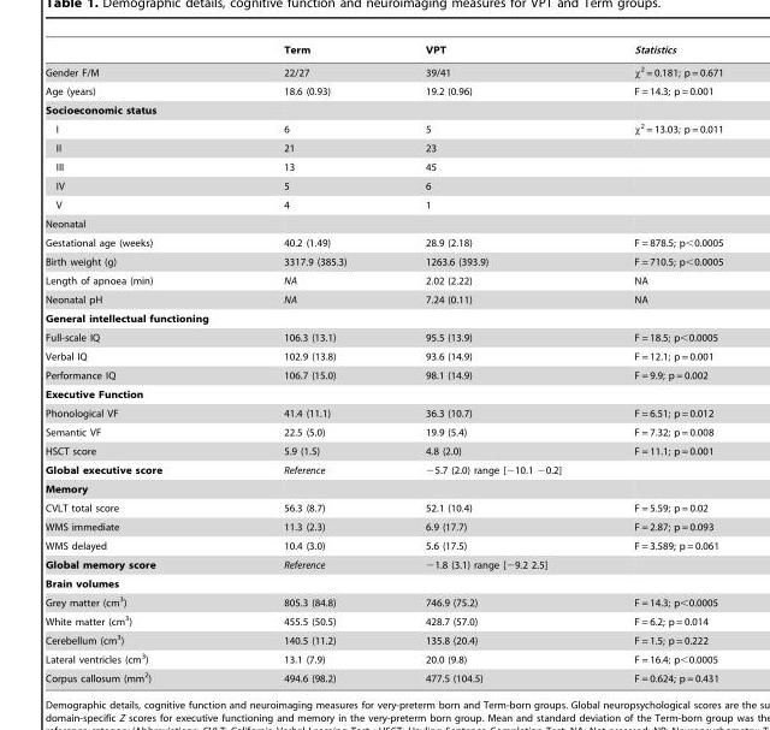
<table><thead><tr><td></td><td>Term</td><td>VPT</td><td>Statistics</td></tr></thead><tbody><tr><td>Gender F/M</td><td>22/27</td><td>39/41</td><td>χ<sup>2</sup> = 0.181; p = 0.671</td></tr><tr><td>Age (years)</td><td>18.6 (0.93)</td><td>19.2 (0.96)</td><td>F = 14.3; p = 0.001</td></tr><tr><td colspan="4">Socioeconomic status</td></tr><tr><td>I</td><td>6</td><td>5</td><td>χ<sup>2</sup> = 13.03; p = 0.011</td></tr><tr><td>II</td><td>21</td><td>23</td><td></td></tr><tr><td>III</td><td>13</td><td>45</td><td></td></tr><tr><td>IV</td><td>5</td><td>6</td><td></td></tr><tr><td>V</td><td>4</td><td>1</td><td></td></tr><tr><td colspan="4">Neonatal</td></tr><tr><td>Gestational age (weeks)</td><td>40.2 (1.49)</td><td>28.9 (2.18)</td><td>F = 878.5; p&lt;0.0005</td></tr><tr><td>Birth weight (g)</td><td>3317.9 (385.3)</td><td>1263.6 (393.9)</td><td>F = 710.5; p&lt;0.0005</td></tr><tr><td>Length of apnoea (min)</td><td>NA</td><td>2.02 (2.22)</td><td>NA</td></tr><tr><td>Neonatal pH</td><td>NA</td><td>7.24 (0.11)</td><td>NA</td></tr><tr><td colspan="4">General intellectual functioning</td></tr><tr><td>Full-scale IQ</td><td>106.3 (13.1)</td><td>95.5 (13.9)</td><td>F = 18.5; p&lt;0.0005</td></tr><tr><td>Verbal IQ</td><td>102.9 (13.8)</td><td>93.6 (14.9)</td><td>F = 12.1; p = 0.001</td></tr><tr><td>Performance IQ</td><td>106.7 (15.0)</td><td>98.1 (14.9)</td><td>F = 9.9; p = 0.002</td></tr><tr><td colspan="4">Executive Function</td></tr><tr><td>Phonological VF</td><td>41.4 (11.1)</td><td>36.3 (10.7)</td><td>F = 6.51; p = 0.012</td></tr><tr><td>Semantic VF</td><td>22.5 (5.0)</td><td>19.9 (5.4)</td><td>F = 7.32; p = 0.008</td></tr><tr><td>HSCT score</td><td>5.9 (1.5)</td><td>4.8 (2.0)</td><td>F = 11.1; p = 0.001</td></tr><tr><td>Global executive score</td><td>Reference</td><td>−5.7 (2.0) range [−10.1 −0.2]</td><td></td></tr><tr><td colspan="4">Memory</td></tr><tr><td>CVLT total score</td><td>56.3 (8.7)</td><td>52.1 (10.4)</td><td>F = 5.59; p = 0.02</td></tr><tr><td>WMS immediate</td><td>11.3 (2.3)</td><td>6.9 (17.7)</td><td>F = 2.87; p = 0.093</td></tr><tr><td>WMS delayed</td><td>10.4 (3.0)</td><td>5.6 (17.5)</td><td>F = 3.589; p = 0.061</td></tr><tr><td>Global memory score</td><td>Reference</td><td>−1.8 (3.1) range [−9.2 2.5]</td><td></td></tr><tr><td colspan="4">Brain volumes</td></tr><tr><td>Grey matter (cm<sup>3</sup>)</td><td>805.3 (84.8)</td><td>746.9 (75.2)</td><td>F = 14.3; p&lt;0.0005</td></tr><tr><td>White matter (cm<sup>3</sup>)</td><td>455.5 (50.5)</td><td>428.7 (57.0)</td><td>F = 6.2; p = 0.014</td></tr><tr><td>Cerebellum (cm<sup>3</sup>)</td><td>140.5 (11.2)</td><td>135.8 (20.4)</td><td>F = 1.5; p = 0.222</td></tr><tr><td>Lateral ventricles (cm<sup>3</sup>)</td><td>13.1 (7.9)</td><td>20.0 (9.8)</td><td>F = 16.4; p&lt;0.0005</td></tr><tr><td>Corpus callosum (mm<sup>2</sup>)</td><td>494.6 (98.2)</td><td>477.5 (104.5)</td><td>F = 0.624; p = 0.431</td></tr></tbody></table>